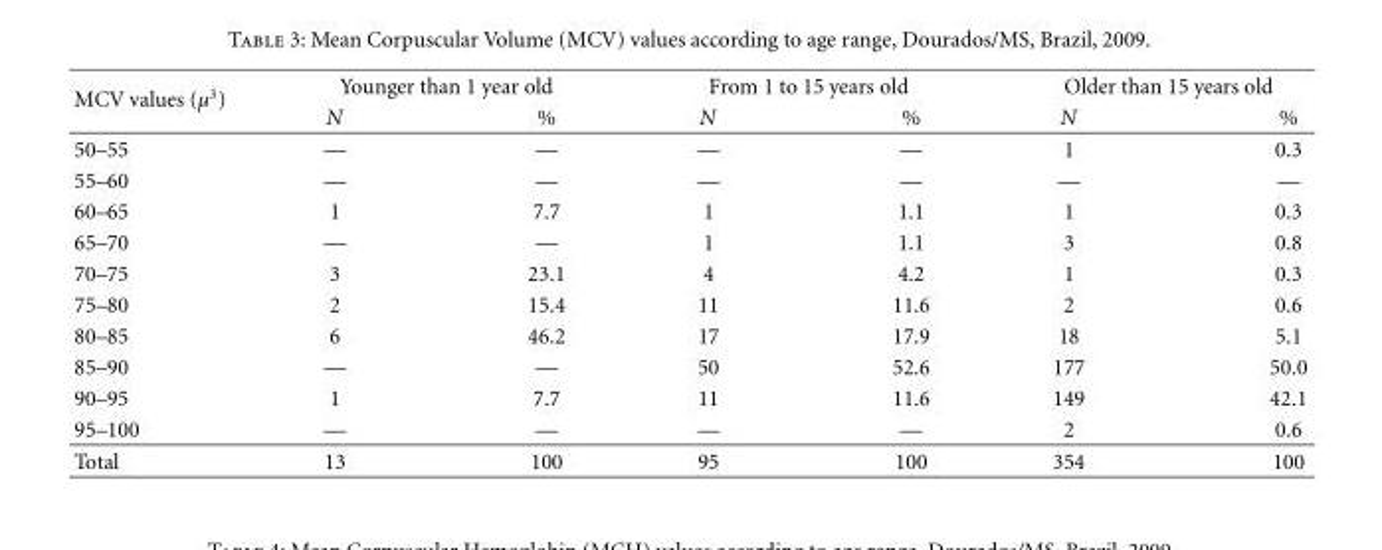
<table><thead><tr><td rowspan="2">MCV values (µ<sup>3</sup>)</td><td colspan="2">Younger than 1 year old</td><td colspan="2">From 1 to 15 years old</td><td colspan="2">Older than 15 years old</td></tr><tr><td>N</td><td>%</td><td>N</td><td>%</td><td>N</td><td>%</td></tr></thead><tbody><tr><td>50–55</td><td>—</td><td>—</td><td>—</td><td>—</td><td>1</td><td>0.3</td></tr><tr><td>55–60</td><td>—</td><td>—</td><td>—</td><td>—</td><td>—</td><td>—</td></tr><tr><td>60–65</td><td>1</td><td>7.7</td><td>1</td><td>1.1</td><td>1</td><td>0.3</td></tr><tr><td>65–70</td><td>—</td><td>—</td><td>1</td><td>1.1</td><td>3</td><td>0.8</td></tr><tr><td>70–75</td><td>3</td><td>23.1</td><td>4</td><td>4.2</td><td>1</td><td>0.3</td></tr><tr><td>75–80</td><td>2</td><td>15.4</td><td>11</td><td>11.6</td><td>2</td><td>0.6</td></tr><tr><td>80–85</td><td>6</td><td>46.2</td><td>17</td><td>17.9</td><td>18</td><td>5.1</td></tr><tr><td>85–90</td><td>—</td><td>—</td><td>50</td><td>52.6</td><td>177</td><td>50.0</td></tr><tr><td>90–95</td><td>1</td><td>7.7</td><td>11</td><td>11.6</td><td>149</td><td>42.1</td></tr><tr><td>95–100</td><td>—</td><td>—</td><td>—</td><td>—</td><td>2</td><td>0.6</td></tr><tr><td>Total</td><td>13</td><td>100</td><td>95</td><td>100</td><td>354</td><td>100</td></tr></tbody></table>